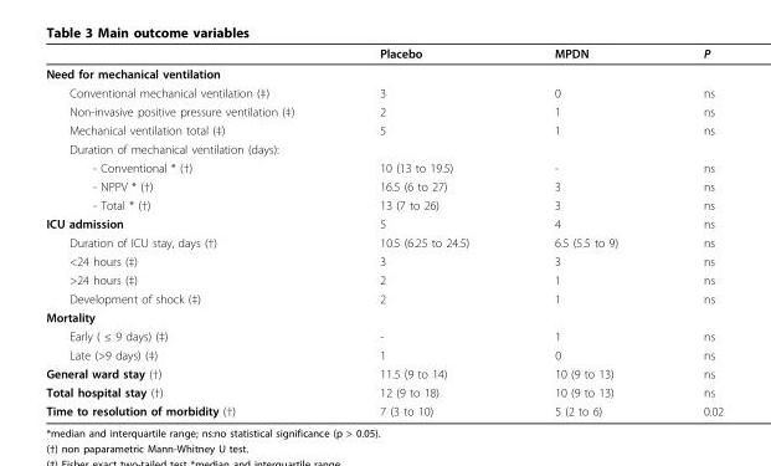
<table><thead><tr><td></td><td>Placebo</td><td>MPDN</td><td>P</td></tr></thead><tbody><tr><td colspan="4">Need for mechanical ventilation</td></tr><tr><td>Conventional mechanical ventilation (‡)</td><td>3</td><td>0</td><td>ns</td></tr><tr><td>Non-invasive positive pressure ventilation (‡)</td><td>2</td><td>1</td><td>ns</td></tr><tr><td>Mechanical ventilation total (‡)</td><td>5</td><td>1</td><td>ns</td></tr><tr><td colspan="4">Duration of mechanical ventilation (days):</td></tr><tr><td>- Conventional * (†)</td><td>10 (13 to 19.5)</td><td>-</td><td>ns</td></tr><tr><td>- NPPV * (†)</td><td>16.5 (6 to 27)</td><td>3</td><td>ns</td></tr><tr><td>- Total * (†)</td><td>13 (7 to 26)</td><td>3</td><td>ns</td></tr><tr><td>ICU admission</td><td>5</td><td>4</td><td>ns</td></tr><tr><td>Duration of ICU stay, days (†)</td><td>10.5 (6.25 to 24.5)</td><td>6.5 (5.5 to 9)</td><td>ns</td></tr><tr><td>&lt;24 hours (‡)</td><td>3</td><td>3</td><td>ns</td></tr><tr><td>&gt;24 hours (‡)</td><td>2</td><td>1</td><td>ns</td></tr><tr><td>Development of shock (‡)</td><td>2</td><td>1</td><td>ns</td></tr><tr><td colspan="4">Mortality</td></tr><tr><td>Early ( ≤ 9 days) (‡)</td><td>-</td><td>1</td><td>ns</td></tr><tr><td>Late (&gt;9 days) (‡)</td><td>1</td><td>0</td><td>ns</td></tr><tr><td>General ward stay (†)</td><td>11.5 (9 to 14)</td><td>10 (9 to 13)</td><td>ns</td></tr><tr><td>Total hospital stay (†)</td><td>12 (9 to 18)</td><td>10 (9 to 13)</td><td>ns</td></tr><tr><td>Time to resolution of morbidity (†)</td><td>7 (3 to 10)</td><td>5 (2 to 6)</td><td>0.02</td></tr></tbody></table>